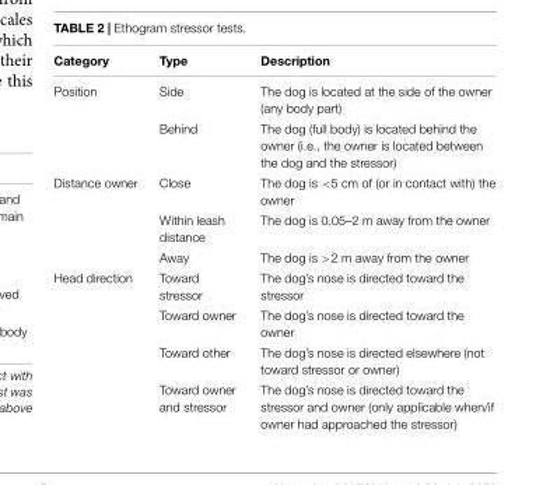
<table><thead><tr><td>Category</td><td>Type</td><td>Description</td></tr></thead><tbody><tr><td rowspan="2">Position</td><td>Side</td><td>The dog is located at the side of the owner (any body part)</td></tr><tr><td>Behind</td><td>The dog (full body) is located behind the owner (i.e., the owner is located between the dog and the stressor)</td></tr><tr><td rowspan="3">Distance owner</td><td>Close</td><td>The dog is &lt;5 cm of (or in contact with) the owner</td></tr><tr><td>Within leash distance</td><td>The dog is 0.05–2 m away from the owner</td></tr><tr><td>Away</td><td>The dog is &gt;2 m away from the owner</td></tr><tr><td rowspan="4">Head direction</td><td>Toward stressor</td><td>The dog’s nose is directed toward the stressor</td></tr><tr><td>Toward owner</td><td>The dog’s nose is directed toward the owner</td></tr><tr><td>Toward other</td><td>The dog’s nose is directed elsewhere (not toward stressor or owner)</td></tr><tr><td>Toward owner and stressor</td><td>The dog’s nose is directed toward the stressor and owner (only applicable when/if owner had approached the stressor)</td></tr></tbody></table>